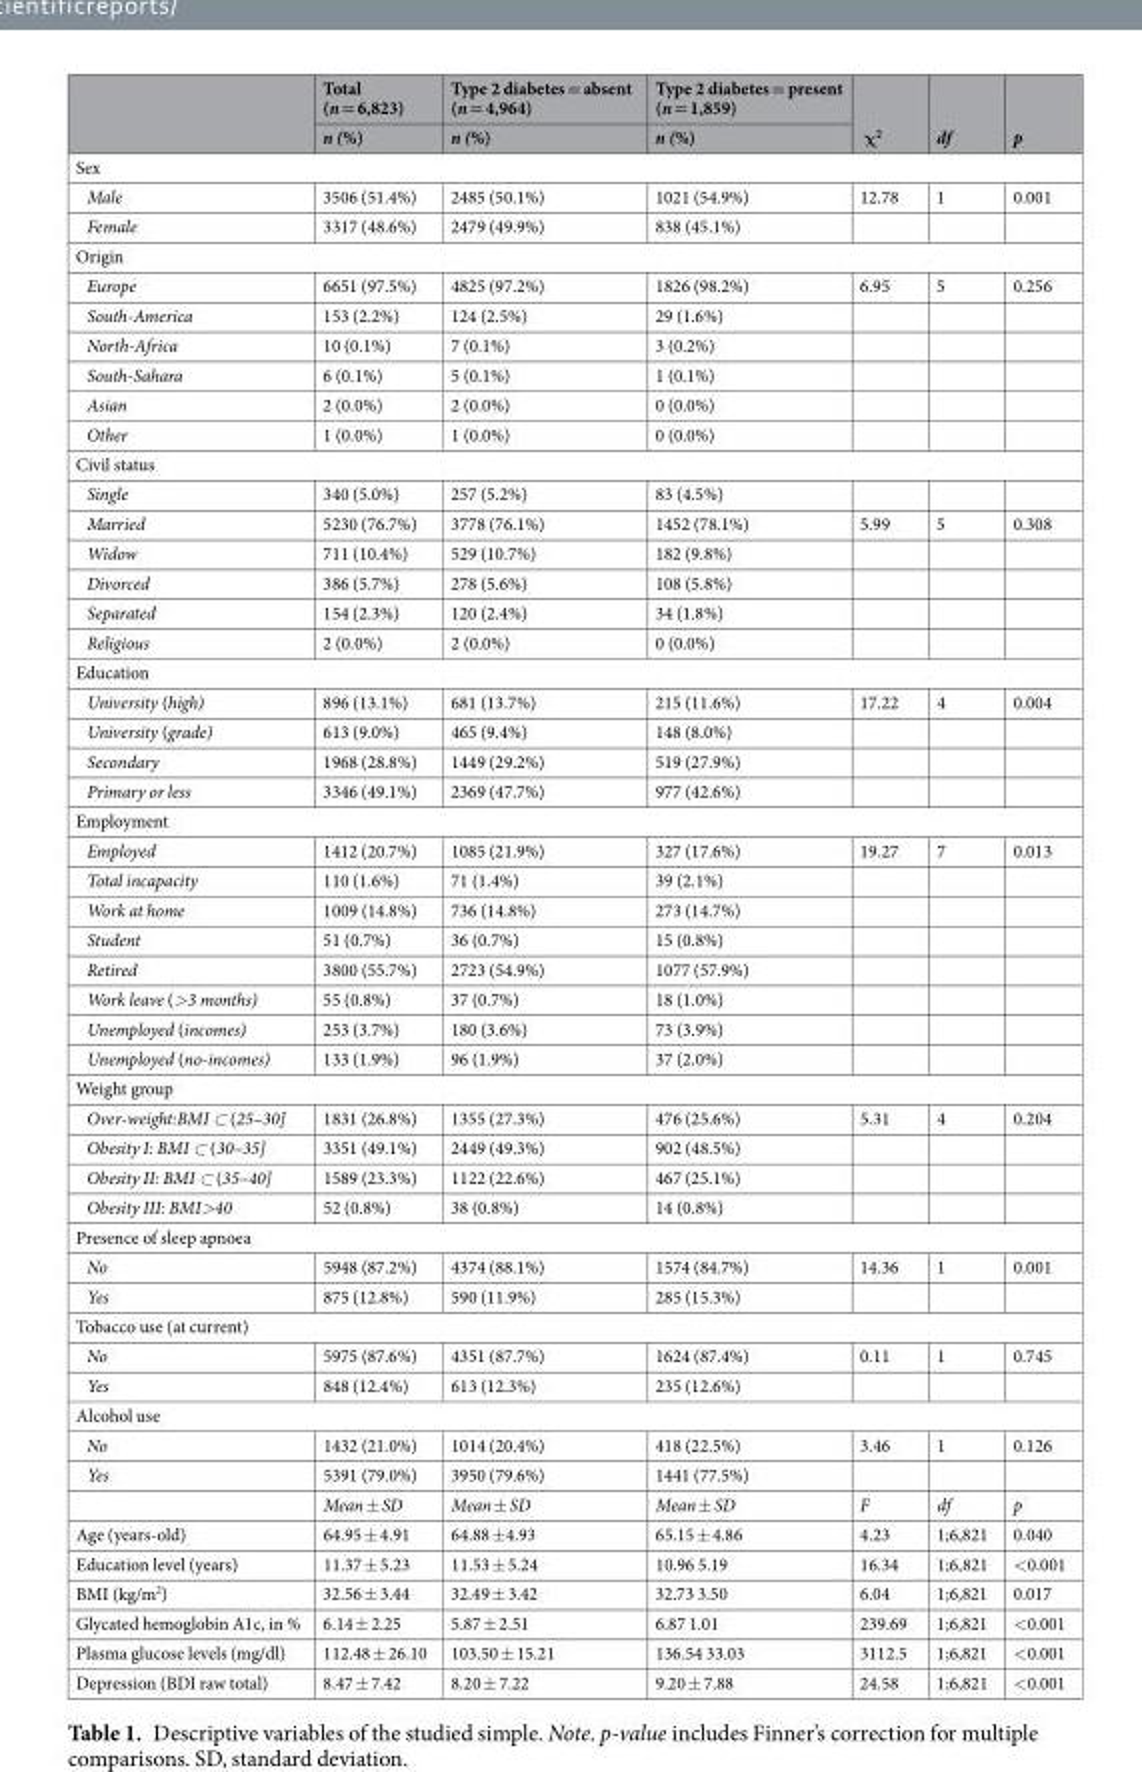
<table><thead><tr><td rowspan="2"></td><td rowspan="2">Total (n = 6,823) n (%)</td><td rowspan="2">Type 2 diabetes = absent (n = 4,964) n (%)</td><td rowspan="2">Type 2 diabetes = present (n = 1,859) n (%)</td><td rowspan="2">χ<sup>2</sup></td><td rowspan="2">df</td><td rowspan="2">p</td></tr><tr></tr></thead><tbody><tr><td colspan="7">Sex</td></tr><tr><td>Male</td><td>3506 (51.4%)</td><td>2485 (50.1%)</td><td>1021 (54.9%)</td><td>12.78</td><td>1</td><td>0.001</td></tr><tr><td>Female</td><td>3317 (48.6%)</td><td>2479 (49.9%)</td><td>838 (45.1%)</td><td></td><td></td><td></td></tr><tr><td colspan="7">Origin</td></tr><tr><td>Europe</td><td>6651 (97.5%)</td><td>4825 (97.2%)</td><td>1826 (98.2%)</td><td>6.95</td><td>5</td><td>0.256</td></tr><tr><td>South-America</td><td>153 (2.2%)</td><td>124 (2.5%)</td><td>29 (1.6%)</td><td></td><td></td><td></td></tr><tr><td>North-Africa</td><td>10 (0.1%)</td><td>7 (0.1%)</td><td>3 (0.2%)</td><td></td><td></td><td></td></tr><tr><td>South-Sahara</td><td>6 (0.1%)</td><td>5 (0.1%)</td><td>1 (0.1%)</td><td></td><td></td><td></td></tr><tr><td>Asian</td><td>2 (0.0%)</td><td>2 (0.0%)</td><td>0 (0.0%)</td><td></td><td></td><td></td></tr><tr><td>Other</td><td>1 (0.0%)</td><td>1 (0.0%)</td><td>0 (0.0%)</td><td></td><td></td><td></td></tr><tr><td colspan="7">Civil status</td></tr><tr><td>Single</td><td>340 (5.0%)</td><td>257 (5.2%)</td><td>83 (4.5%)</td><td></td><td></td><td></td></tr><tr><td>Married</td><td>5230 (76.7%)</td><td>3778 (76.1%)</td><td>1452 (78.1%)</td><td>5.99</td><td>5</td><td>0.308</td></tr><tr><td>Widow</td><td>711 (10.4%)</td><td>529 (10.7%)</td><td>182 (9.8%)</td><td></td><td></td><td></td></tr><tr><td>Divorced</td><td>386 (5.7%)</td><td>278 (5.6%)</td><td>108 (5.8%)</td><td></td><td></td><td></td></tr><tr><td>Separated</td><td>154 (2.3%)</td><td>120 (2.4%)</td><td>34 (1.8%)</td><td></td><td></td><td></td></tr><tr><td>Religious</td><td>2 (0.0%)</td><td>2 (0.0%)</td><td>0 (0.0%)</td><td></td><td></td><td></td></tr><tr><td colspan="7">Education</td></tr><tr><td>University (high)</td><td>896 (13.1%)</td><td>681 (13.7%)</td><td>215 (11.6%)</td><td>17.22</td><td>4</td><td>0.004</td></tr><tr><td>University (grade)</td><td>613 (9.0%)</td><td>465 (9.4%)</td><td>148 (8.0%)</td><td></td><td></td><td></td></tr><tr><td>Secondary</td><td>1968 (28.8%)</td><td>1449 (29.2%)</td><td>519 (27.9%)</td><td></td><td></td><td></td></tr><tr><td>Primary or less</td><td>3346 (49.1%)</td><td>2369 (47.7%)</td><td>977 (42.6%)</td><td></td><td></td><td></td></tr><tr><td colspan="7">Employment</td></tr><tr><td>Employed</td><td>1412 (20.7%)</td><td>1085 (21.9%)</td><td>327 (17.6%)</td><td>19.27</td><td>7</td><td>0.013</td></tr><tr><td>Total incapacity</td><td>110 (1.6%)</td><td>71 (1.4%)</td><td>39 (2.1%)</td><td></td><td></td><td></td></tr><tr><td>Work at home</td><td>1009 (14.8%)</td><td>736 (14.8%)</td><td>273 (14.7%)</td><td></td><td></td><td></td></tr><tr><td>Student</td><td>51 (0.7%)</td><td>36 (0.7%)</td><td>15 (0.8%)</td><td></td><td></td><td></td></tr><tr><td>Retired</td><td>3800 (55.7%)</td><td>2723 (54.9%)</td><td>1077 (57.9%)</td><td></td><td></td><td></td></tr><tr><td>Work leave (&gt;3 months)</td><td>55 (0.8%)</td><td>37 (0.7%)</td><td>18 (1.0%)</td><td></td><td></td><td></td></tr><tr><td>Unemployed (incomes)</td><td>253 (3.7%)</td><td>180 (3.6%)</td><td>73 (3.9%)</td><td></td><td></td><td></td></tr><tr><td>Unemployed (no-incomes)</td><td>133 (1.9%)</td><td>96 (1.9%)</td><td>37 (2.0%)</td><td></td><td></td><td></td></tr><tr><td colspan="7">Weight group</td></tr><tr><td>Over-weight:BMI ⊂ (25–30]</td><td>1831 (26.8%)</td><td>1355 (27.3%)</td><td>476 (25.6%)</td><td>5.31</td><td>4</td><td>0.204</td></tr><tr><td>Obesity I: BMI ⊂ (30–35]</td><td>3351 (49.1%)</td><td>2449 (49.3%)</td><td>902 (48.5%)</td><td></td><td></td><td></td></tr><tr><td>Obesity II: BMI ⊂ (35–40]</td><td>1589 (23.3%)</td><td>1122 (22.6%)</td><td>467 (25.1%)</td><td></td><td></td><td></td></tr><tr><td>Obesity III: BMI&gt;40</td><td>52 (0.8%)</td><td>38 (0.8%)</td><td>14 (0.8%)</td><td></td><td></td><td></td></tr><tr><td colspan="7">Presence of sleep apnoea</td></tr><tr><td>No</td><td>5948 (87.2%)</td><td>4374 (88.1%)</td><td>1574 (84.7%)</td><td>14.36</td><td>1</td><td>0.001</td></tr><tr><td>Yes</td><td>875 (12.8%)</td><td>590 (11.9%)</td><td>285 (15.3%)</td><td></td><td></td><td></td></tr><tr><td colspan="7">Tobacco use (at current)</td></tr><tr><td>No</td><td>5975 (87.6%)</td><td>4351 (87.7%)</td><td>1624 (87.4%)</td><td>0.11</td><td>1</td><td>0.745</td></tr><tr><td>Yes</td><td>848 (12.4%)</td><td>613 (12.3%)</td><td>235 (12.6%)</td><td></td><td></td><td></td></tr><tr><td colspan="7">Alcohol use</td></tr><tr><td>No</td><td>1432 (21.0%)</td><td>1014 (20.4%)</td><td>418 (22.5%)</td><td>3.46</td><td>1</td><td>0.126</td></tr><tr><td rowspan="2">Yes</td><td>5391 (79.0%)</td><td>3950 (79.6%)</td><td>1441 (77.5%)</td><td></td><td></td><td></td></tr><tr><td>Mean ± SD</td><td>Mean ± SD</td><td>Mean ± SD</td><td>F</td><td>df</td><td>p</td></tr><tr><td>Age (years-old)</td><td>64.95 ± 4.91</td><td>64.88 ±4.93</td><td>65.15 ± 4.86</td><td>4.23</td><td>1;6,821</td><td>0.040</td></tr><tr><td>Education level (years)</td><td>11.37 ± 5.23</td><td>11.53 ± 5.24</td><td>10.96 5.19</td><td>16.34</td><td>1;6,821</td><td>&lt;0.001</td></tr><tr><td>BMI (kg/m<sup>2</sup>)</td><td>32.56 ± 3.44</td><td>32.49 ± 3.42</td><td>32.73 3.50</td><td>6.04</td><td>1;6,821</td><td>0.017</td></tr><tr><td>Glycated hemoglobin A1c, in %</td><td>6.14 ± 2.25</td><td>5.87 ± 2.51</td><td>6.87 1.01</td><td>239.69</td><td>1;6,821</td><td>&lt;0.001</td></tr><tr><td>Plasma glucose levels (mg/dl)</td><td>112.48 ± 26.10</td><td>103.50 ± 15.21</td><td>136.54 33.03</td><td>3112.5</td><td>1;6,821</td><td>&lt;0.001</td></tr><tr><td>Depression (BDI raw total)</td><td>8.47 ± 7.42</td><td>8.20 ± 7.22</td><td>9.20 ± 7.88</td><td>24.58</td><td>1;6,821</td><td>&lt;0.001</td></tr></tbody></table>